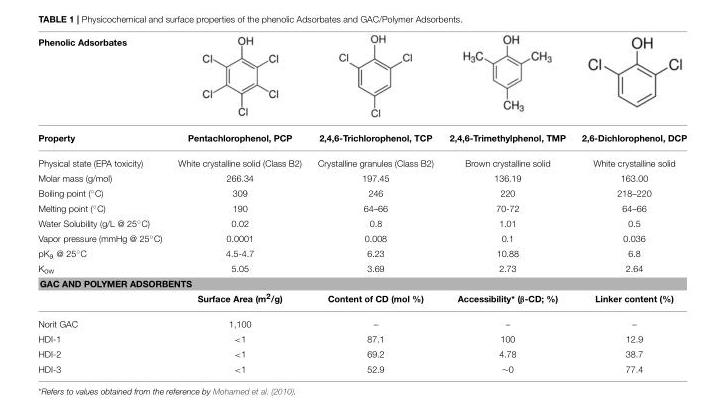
<table><thead><tr><td>Phenolic Adsorbates</td><td></td><td></td><td></td><td></td></tr></thead><tbody><tr><td>Property</td><td>Pentachlorophenol, PCP</td><td>2,4,6-Trichlorophenol, TCP</td><td>2,4,6-Trimethylphenol, TMP</td><td>2,6-Dichlorophenol, DCP</td></tr><tr><td>Physical state (EPA toxicity)</td><td>White crystalline solid (Class B2)</td><td>Crystalline granules (Class B2)</td><td>Brown crystalline solid</td><td>White crystalline solid</td></tr><tr><td>Molar mass (g/mol)</td><td>266.34</td><td>197.45</td><td>136.19</td><td>163.00</td></tr><tr><td>Boiling point (◦C)</td><td>309</td><td>246</td><td>220</td><td>218–220</td></tr><tr><td>Melting point (◦C)</td><td>190</td><td>64–66</td><td>70-72</td><td>64–66</td></tr><tr><td>Water Solubility (g/L @ 25◦C)</td><td>0.02</td><td>0.8</td><td>1.01</td><td>0.5</td></tr><tr><td>Vapor pressure (mmHg @ 25◦C)</td><td>0.0001</td><td>0.008</td><td>0.1</td><td>0.036</td></tr><tr><td>pKa @ 25◦C</td><td>4.5-4.7</td><td>6.23</td><td>10.88</td><td>6.8</td></tr><tr><td>K<sub>ow</sub></td><td>5.05</td><td>3.69</td><td>2.73</td><td>2.64</td></tr><tr><td colspan="5">GAC AND POLYMER ADSORBENTS</td></tr><tr><td></td><td>Surface Area (m<sup>2</sup>/g)</td><td>Content of CD (mol %)</td><td>Accessibility* (β-CD; %)</td><td>Linker content (%)</td></tr><tr><td>Norit GAC</td><td>1,100</td><td>–</td><td>–</td><td>–</td></tr><tr><td>HDI-1</td><td>&lt;1</td><td>87.1</td><td>100</td><td>12.9</td></tr><tr><td>HDI-2</td><td>&lt;1</td><td>69.2</td><td>4.78</td><td>38.7</td></tr><tr><td>HDI-3</td><td>&lt;1</td><td>52.9</td><td>∼0</td><td>77.4</td></tr></tbody></table>